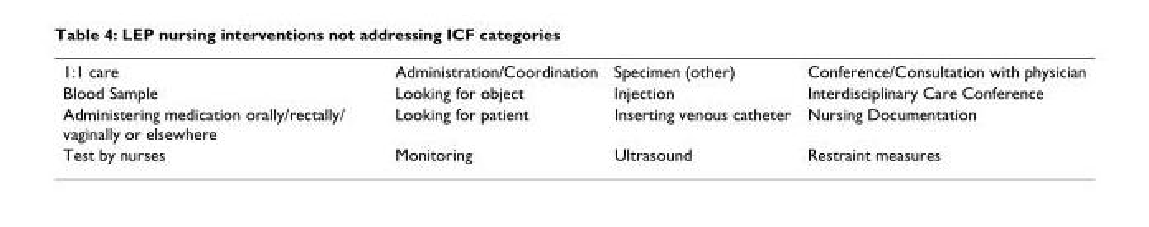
<table><tbody><tr><td>1:1 care</td><td>Administration/Coordination</td><td>Specimen (other)</td><td>Conference/Consultation with physician</td></tr><tr><td>Blood Sample</td><td>Looking for object</td><td>Injection</td><td>Interdisciplinary Care Conference</td></tr><tr><td>Administering medication orally/rectally/ vaginally or elsewhere</td><td>Looking for patient</td><td>Inserting venous catheter</td><td>Nursing Documentation</td></tr><tr><td>Test by nurses</td><td>Monitoring</td><td>Ultrasound</td><td>Restraint measures</td></tr></tbody></table>